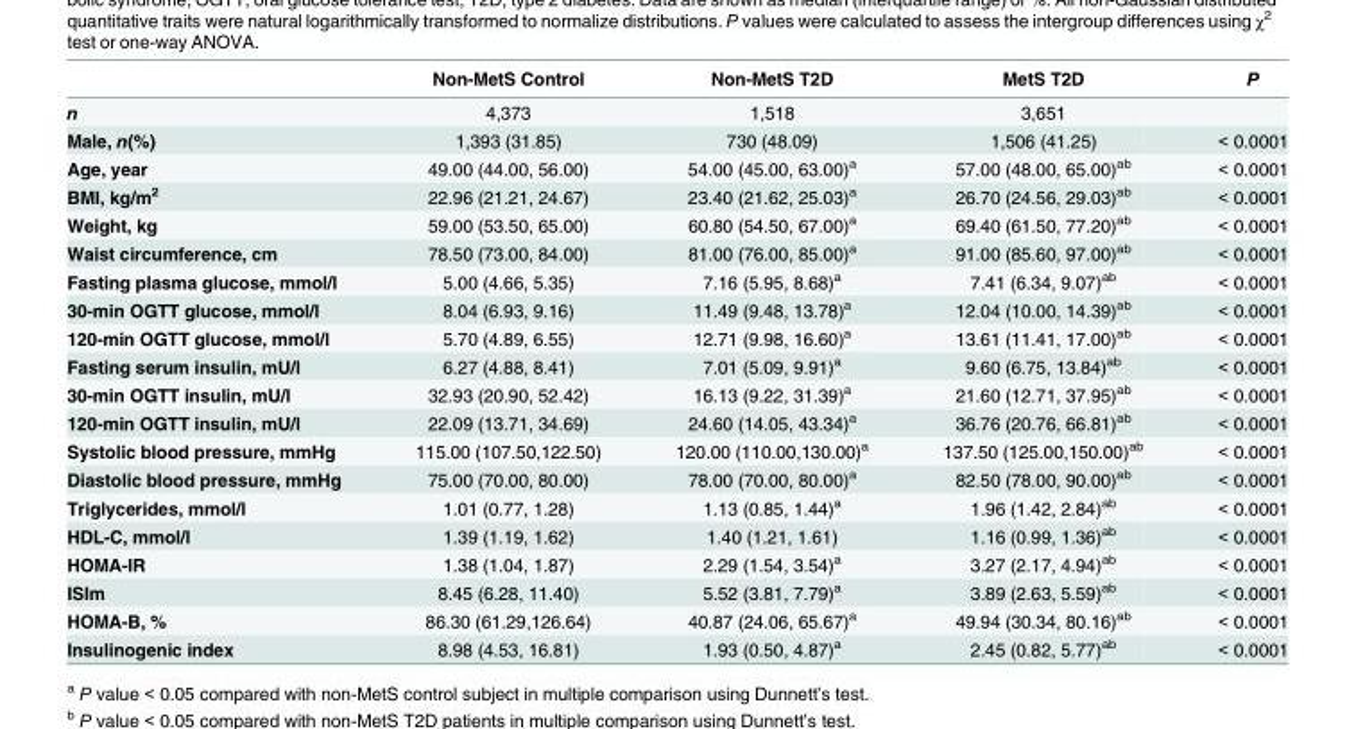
<table><thead><tr><td></td><td>Non-MetS Control</td><td>Non-MetS T2D</td><td>MetS T2D</td><td>P</td></tr></thead><tbody><tr><td>n</td><td>4,373</td><td>1,518</td><td>3,651</td><td></td></tr><tr><td>Male, n(%)</td><td>1,393 (31.85)</td><td>730 (48.09)</td><td>1,506 (41.25)</td><td>&lt; 0.0001</td></tr><tr><td>Age, year</td><td>49.00 (44.00, 56.00)</td><td>54.00 (45.00, 63.00)<sup>a</sup></td><td>57.00 (48.00, 65.00)<sup>ab</sup></td><td>&lt; 0.0001</td></tr><tr><td>BMI, kg/m<sup>2</sup></td><td>22.96 (21.21, 24.67)</td><td>23.40 (21.62, 25.03)<sup>a</sup></td><td>26.70 (24.56, 29.03)<sup>ab</sup></td><td>&lt; 0.0001</td></tr><tr><td>Weight, kg</td><td>59.00 (53.50, 65.00)</td><td>60.80 (54.50, 67.00)<sup>a</sup></td><td>69.40 (61.50, 77.20)<sup>ab</sup></td><td>&lt; 0.0001</td></tr><tr><td>Waist circumference, cm</td><td>78.50 (73.00, 84.00)</td><td>81.00 (76.00, 85.00)<sup>a</sup></td><td>91.00 (85.60, 97.00)<sup>ab</sup></td><td>&lt; 0.0001</td></tr><tr><td>Fasting plasma glucose, mmol/l</td><td>5.00 (4.66, 5.35)</td><td>7.16 (5.95, 8.68)<sup>a</sup></td><td>7.41 (6.34, 9.07)<sup>ab</sup></td><td>&lt; 0.0001</td></tr><tr><td>30-min OGTT glucose, mmol/l</td><td>8.04 (6.93, 9.16)</td><td>11.49 (9.48, 13.78)<sup>a</sup></td><td>12.04 (10.00, 14.39)<sup>ab</sup></td><td>&lt; 0.0001</td></tr><tr><td>120-min OGTT glucose, mmol/l</td><td>5.70 (4.89, 6.55)</td><td>12.71 (9.98, 16.60)<sup>a</sup></td><td>13.61 (11.41, 17.00)<sup>ab</sup></td><td>&lt; 0.0001</td></tr><tr><td>Fasting serum insulin, mU/l</td><td>6.27 (4.88, 8.41)</td><td>7.01 (5.09, 9.91)<sup>a</sup></td><td>9.60 (6.75, 13.84)<sup>ab</sup></td><td>&lt; 0.0001</td></tr><tr><td>30-min OGTT insulin, mU/l</td><td>32.93 (20.90, 52.42)</td><td>16.13 (9.22, 31.39)<sup>a</sup></td><td>21.60 (12.71, 37.95)<sup>ab</sup></td><td>&lt; 0.0001</td></tr><tr><td>120-min OGTT insulin, mU/l</td><td>22.09 (13.71, 34.69)</td><td>24.60 (14.05, 43.34)<sup>a</sup></td><td>36.76 (20.76, 66.81)<sup>ab</sup></td><td>&lt; 0.0001</td></tr><tr><td>Systolic blood pressure, mmHg</td><td>115.00 (107.50,122.50)</td><td>120.00 (110.00,130.00)<sup>a</sup></td><td>137.50 (125.00,150.00)<sup>ab</sup></td><td>&lt; 0.0001</td></tr><tr><td>Diastolic blood pressure, mmHg</td><td>75.00 (70.00, 80.00)</td><td>78.00 (70.00, 80.00)<sup>a</sup></td><td>82.50 (78.00, 90.00)<sup>ab</sup></td><td>&lt; 0.0001</td></tr><tr><td>Triglycerides, mmol/l</td><td>1.01 (0.77, 1.28)</td><td>1.13 (0.85, 1.44)<sup>a</sup></td><td>1.96 (1.42, 2.84)<sup>ab</sup></td><td>&lt; 0.0001</td></tr><tr><td>HDL-C, mmol/l</td><td>1.39 (1.19, 1.62)</td><td>1.40 (1.21, 1.61)</td><td>1.16 (0.99, 1.36)<sup>ab</sup></td><td>&lt; 0.0001</td></tr><tr><td>HOMA-IR</td><td>1.38 (1.04, 1.87)</td><td>2.29 (1.54, 3.54)<sup>a</sup></td><td>3.27 (2.17, 4.94)<sup>ab</sup></td><td>&lt; 0.0001</td></tr><tr><td>ISIm</td><td>8.45 (6.28, 11.40)</td><td>5.52 (3.81, 7.79)<sup>a</sup></td><td>3.89 (2.63, 5.59)<sup>ab</sup></td><td>&lt; 0.0001</td></tr><tr><td>HOMA-B, %</td><td>86.30 (61.29,126.64)</td><td>40.87 (24.06, 65.67)<sup>a</sup></td><td>49.94 (30.34, 80.16)<sup>ab</sup></td><td>&lt; 0.0001</td></tr><tr><td>Insulinogenic index</td><td>8.98 (4.53, 16.81)</td><td>1.93 (0.50, 4.87)<sup>a</sup></td><td>2.45 (0.82, 5.77)<sup>ab</sup></td><td>&lt; 0.0001</td></tr></tbody></table>